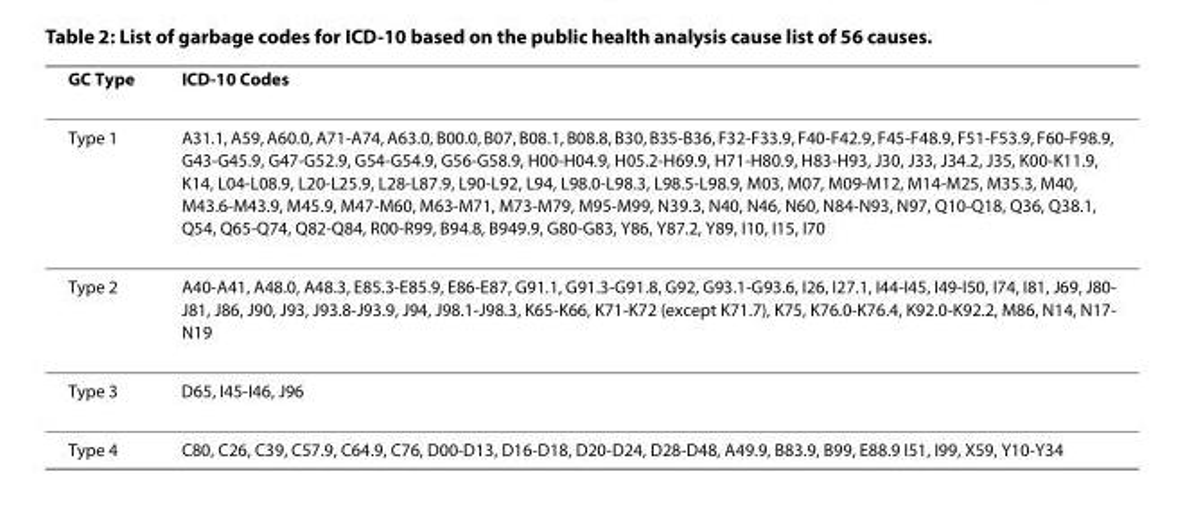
<table><thead><tr><td>GC Type</td><td>ICD-10 Codes</td></tr></thead><tbody><tr><td>Type 1</td><td>A31.1, A59, A60.0, A71-A74, A63.0, B00.0, B07, B08.1, B08.8, B30, B35-B36, F32-F33.9, F40-F42.9, F45-F48.9, F51-F53.9, F60-F98.9, G43-G45.9, G47-G52.9, G54-G54.9, G56-G58.9, H00-H04.9, H05.2-H69.9, H71-H80.9, H83-H93, J30, J33, J34.2, J35, K00-K11.9, K14, L04-L08.9, L20-L25.9, L28-L87.9, L90-L92, L94, L98.0-L98.3, L98.5-L98.9, M03, M07, M09-M12, M14-M25, M35.3, M40, M43.6-M43.9, M45.9, M47-M60, M63-M71, M73-M79, M95-M99, N39.3, N40, N46, N60, N84-N93, N97, Q10-Q18, Q36, Q38.1, Q54, Q65-Q74, Q82-Q84, R00-R99, B94.8, B949.9, G80-G83, Y86, Y87.2, Y89, I10, I15, I70</td></tr><tr><td>Type 2</td><td>A40-A41, A48.0, A48.3, E85.3-E85.9, E86-E87, G91.1, G91.3-G91.8, G92, G93.1-G93.6, I26, I27.1, I44-I45, I49-I50, I74, I81, J69, J80- J81, J86, J90, J93, J93.8-J93.9, J94, J98.1-J98.3, K65-K66, K71-K72 (except K71.7), K75, K76.0-K76.4, K92.0-K92.2, M86, N14, N17- N19</td></tr><tr><td>Type 3</td><td>D65, I45-I46, J96</td></tr><tr><td>Type 4</td><td>C80, C26, C39, C57.9, C64.9, C76, D00-D13, D16-D18, D20-D24, D28-D48, A49.9, B83.9, B99, E88.9 I51, I99, X59, Y10-Y34</td></tr></tbody></table>